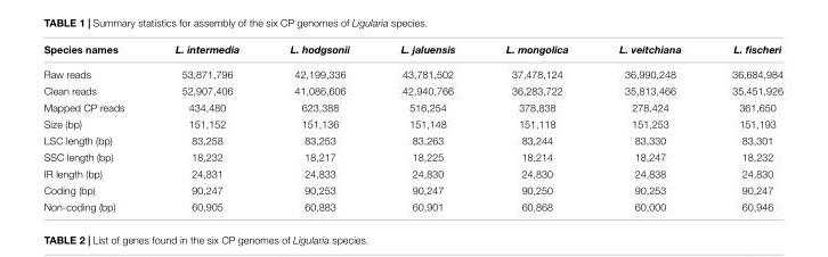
<table><thead><tr><td>Species names</td><td>L. intermedia</td><td>L. hodgsonii</td><td>L. jaluensis</td><td>L. mongolica</td><td>L. veitchiana</td><td>L. fischeri</td></tr></thead><tbody><tr><td>Raw reads</td><td>53,871,796</td><td>42,199,336</td><td>43,781,502</td><td>37,478,124</td><td>36,990,248</td><td>36,684,984</td></tr><tr><td>Clean reads</td><td>52,907,406</td><td>41,086,606</td><td>42,940,766</td><td>36,283,722</td><td>35,813,466</td><td>35,451,926</td></tr><tr><td>Mapped CP reads</td><td>434,480</td><td>623,388</td><td>516,254</td><td>378,838</td><td>278,424</td><td>361,650</td></tr><tr><td>Size (bp)</td><td>151,152</td><td>151,136</td><td>151,148</td><td>151,118</td><td>151,253</td><td>151,193</td></tr><tr><td>LSC length (bp)</td><td>83,258</td><td>83,253</td><td>83,263</td><td>83,244</td><td>83,330</td><td>83,301</td></tr><tr><td>SSC length (bp)</td><td>18,232</td><td>18,217</td><td>18,225</td><td>18,214</td><td>18,247</td><td>18,232</td></tr><tr><td>IR length (bp)</td><td>24,831</td><td>24,833</td><td>24,830</td><td>24,830</td><td>24,838</td><td>24,830</td></tr><tr><td>Coding (bp)</td><td>90,247</td><td>90,253</td><td>90,247</td><td>90,250</td><td>90,253</td><td>90,247</td></tr><tr><td>Non-coding (bp)</td><td>60,905</td><td>60,883</td><td>60,901</td><td>60,868</td><td>60,000</td><td>60,946</td></tr></tbody></table>